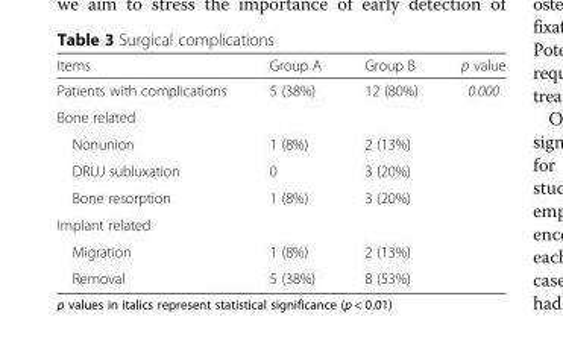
<table><thead><tr><td>Items</td><td>Group A</td><td>Group B</td><td>p value</td></tr></thead><tbody><tr><td>Patients with complications</td><td>5 (38%)</td><td>12 (80%)</td><td>0.000</td></tr><tr><td colspan="4">Bone related</td></tr><tr><td>Nonunion</td><td>1 (8%)</td><td>2 (13%)</td><td></td></tr><tr><td>DRUJ subluxation</td><td>0</td><td>3 (20%)</td><td></td></tr><tr><td>Bone resorption</td><td>1 (8%)</td><td>3 (20%)</td><td></td></tr><tr><td colspan="4">Implant related</td></tr><tr><td>Migration</td><td>1 (8%)</td><td>2 (13%)</td><td></td></tr><tr><td>Removal</td><td>5 (38%)</td><td>8 (53%)</td><td></td></tr></tbody></table>